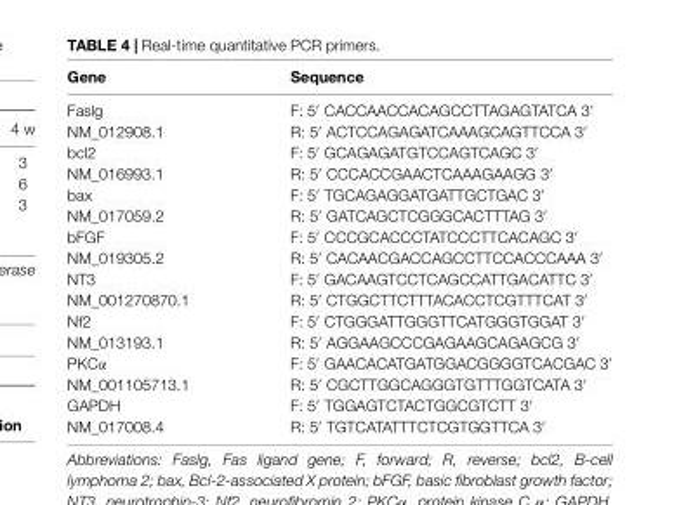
<table><thead><tr><td>Gene</td><td>Sequence</td></tr></thead><tbody><tr><td>Faslg</td><td>F: 5′ CACCAACCACAGCCTTAGAGTATCA 3′</td></tr><tr><td>NM_012908.1</td><td>R: 5′ ACTCCAGAGATCAAAGCAGTTCCA 3′</td></tr><tr><td>bcl2</td><td>F: 5′ GCAGAGATGTCCAGTCAGC 3′</td></tr><tr><td>NM_016993.1</td><td>R: 5′ CCCACCGAACTCAAAGAAGG 3′</td></tr><tr><td>bax</td><td>F: 5′ TGCAGAGGATGATTGCTGAC 3′</td></tr><tr><td>NM_017059.2</td><td>R: 5′ GATCAGCTCGGGCACTTTAG 3′</td></tr><tr><td>bFGF</td><td>F: 5′ CCCGCACCCTATCCCTTCACAGC 3′</td></tr><tr><td>NM_019305.2</td><td>R: 5′ CACAACGACCAGCCTTCCACCCAAA 3′</td></tr><tr><td>NT3</td><td>F: 5′ GACAAGTCCTCAGCCATTGACATTC 3′</td></tr><tr><td>NM_001270870.1</td><td>R: 5′ CTGGCTTCTTTACACCTCGTTTCAT 3′</td></tr><tr><td>Nf2</td><td>F: 5′ CTGGGATTGGGTTCATGGGTGGAT 3′</td></tr><tr><td>NM_013193.1</td><td>R: 5′ AGGAAGCCCGAGAAGCAGAGCG 3′</td></tr><tr><td>PKCα</td><td>F: 5′ GAACACATGATGGACGGGGTCACGAC 3′</td></tr><tr><td>NM_001105713.1</td><td>R: 5′ CGCTTGGCAGGGTGTTTGGTCATA 3′</td></tr><tr><td>GAPDH</td><td>F: 5′ TGGAGTCTACTGGCGTCTT 3′</td></tr><tr><td>NM_017008.4</td><td>R: 5′ TGTCATATTTCTCGTGGTTCA 3′</td></tr></tbody></table>